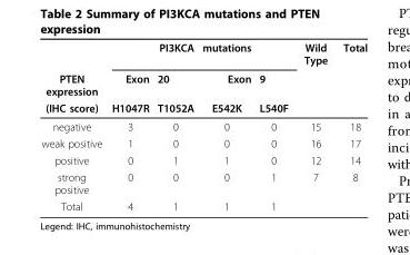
<table><thead><tr><td rowspan="3">PTEN expression (IHC score)</td><td rowspan="3">Exon H1047R</td><td rowspan="3">PI3KCA 20 T1052A</td><td rowspan="3">mutations Exon E542K</td><td rowspan="3">9 L540F</td><td rowspan="3">Wild Type</td><td rowspan="3">Total</td></tr><tr></tr><tr></tr></thead><tbody><tr><td>negative</td><td>3</td><td>0</td><td>0</td><td>0</td><td>15</td><td>18</td></tr><tr><td>weak positive</td><td>1</td><td>0</td><td>0</td><td>0</td><td>16</td><td>17</td></tr><tr><td>positive</td><td>0</td><td>1</td><td>1</td><td>0</td><td>12</td><td>14</td></tr><tr><td>strong positive</td><td>0</td><td>0</td><td>0</td><td>1</td><td>7</td><td>8</td></tr><tr><td>Total</td><td>4</td><td>1</td><td>1</td><td>1</td><td></td><td></td></tr></tbody></table>